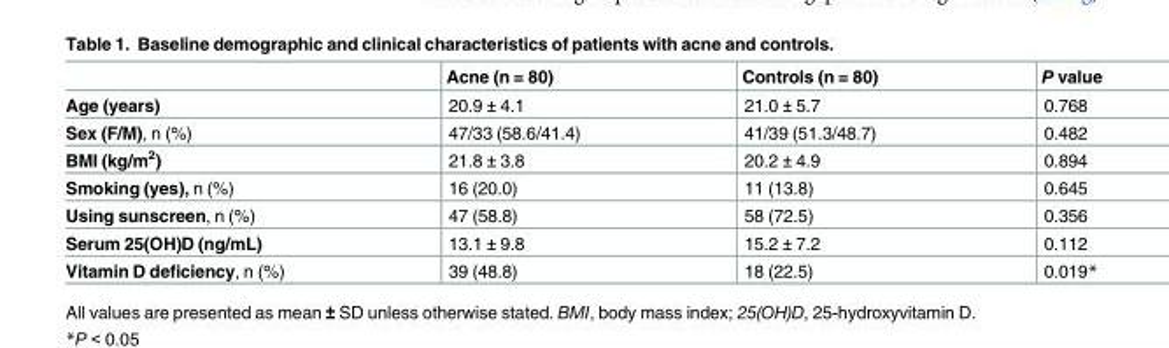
<table><thead><tr><td></td><td>Acne (n = 80)</td><td>Controls (n = 80)</td><td>P value</td></tr></thead><tbody><tr><td>Age (years)</td><td>20.9 ± 4.1</td><td>21.0 ± 5.7</td><td>0.768</td></tr><tr><td>Sex (F/M), n (%)</td><td>47/33 (58.6/41.4)</td><td>41/39 (51.3/48.7)</td><td>0.482</td></tr><tr><td>BMI (kg/m<sup>2</sup>)</td><td>21.8 ± 3.8</td><td>20.2 ± 4.9</td><td>0.894</td></tr><tr><td>Smoking (yes), n (%)</td><td>16 (20.0)</td><td>11 (13.8)</td><td>0.645</td></tr><tr><td>Using sunscreen, n (%)</td><td>47 (58.8)</td><td>58 (72.5)</td><td>0.356</td></tr><tr><td>Serum 25(OH)D (ng/mL)</td><td>13.1 ± 9.8</td><td>15.2 ± 7.2</td><td>0.112</td></tr><tr><td>Vitamin D deficiency, n (%)</td><td>39 (48.8)</td><td>18 (22.5)</td><td>0.019*</td></tr></tbody></table>